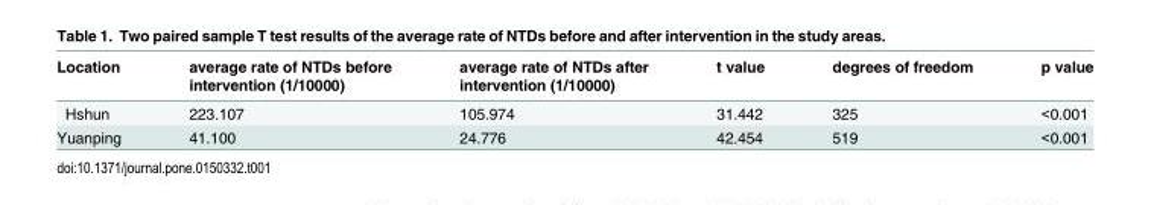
<table><thead><tr><td>Location</td><td>average rate of NTDs before intervention (1/10000)</td><td>average rate of NTDs after intervention (1/10000)</td><td>t value</td><td>degrees of freedom</td><td>p value</td></tr></thead><tbody><tr><td>Hshun</td><td>223.107</td><td>105.974</td><td>31.442</td><td>325</td><td>&lt;0.001</td></tr><tr><td>Yuanping</td><td>41.100</td><td>24.776</td><td>42.454</td><td>519</td><td>&lt;0.001</td></tr></tbody></table>